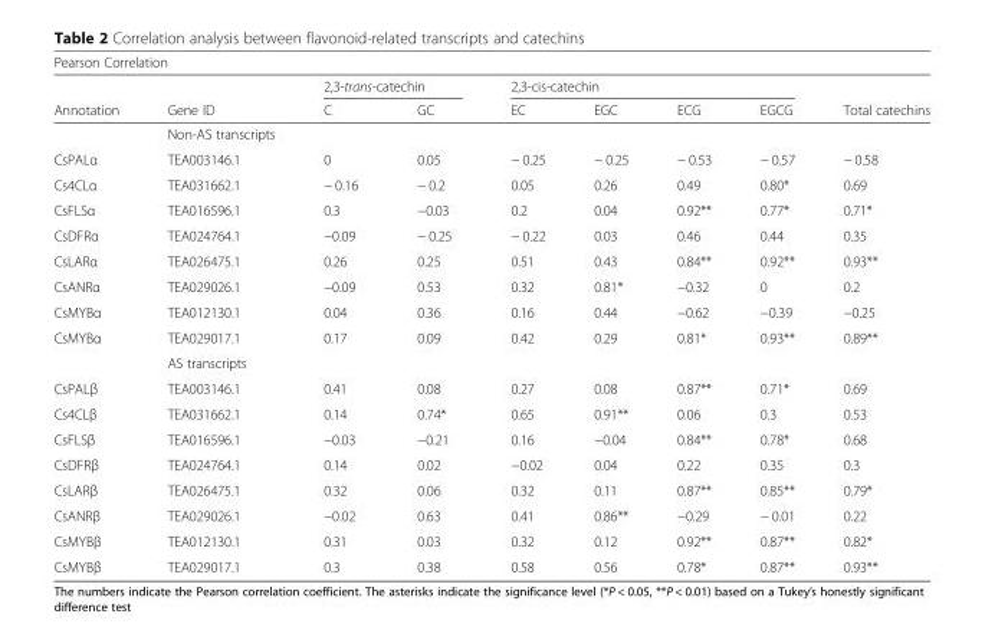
<table><thead><tr><td colspan="9">Pearson Correlation</td></tr><tr><td rowspan="2">Annotation</td><td rowspan="2">Gene ID</td><td colspan="2">2,3-trans-catechin</td><td colspan="4">2,3-cis-catechin</td><td rowspan="2">Total catechins</td></tr><tr><td>C</td><td>GC</td><td>EC</td><td>EGC</td><td>ECG</td><td>EGCG</td></tr></thead><tbody><tr><td></td><td>Non-AS transcripts</td><td></td><td></td><td></td><td></td><td></td><td></td><td></td></tr><tr><td>CsPALα</td><td>TEA003146.1</td><td>0</td><td>0.05</td><td>− 0.25</td><td>− 0.25</td><td>− 0.53</td><td>− 0.57</td><td>− 0.58</td></tr><tr><td>Cs4CLα</td><td>TEA031662.1</td><td>− 0.16</td><td>− 0.2</td><td>0.05</td><td>0.26</td><td>0.49</td><td>0.80*</td><td>0.69</td></tr><tr><td>CsFLSα</td><td>TEA016596.1</td><td>0.3</td><td>−0.03</td><td>0.2</td><td>0.04</td><td>0.92**</td><td>0.77*</td><td>0.71*</td></tr><tr><td>CsDFRα</td><td>TEA024764.1</td><td>−0.09</td><td>− 0.25</td><td>− 0.22</td><td>0.03</td><td>0.46</td><td>0.44</td><td>0.35</td></tr><tr><td>CsLARα</td><td>TEA026475.1</td><td>0.26</td><td>0.25</td><td>0.51</td><td>0.43</td><td>0.84**</td><td>0.92**</td><td>0.93**</td></tr><tr><td>CsANRα</td><td>TEA029026.1</td><td>−0.09</td><td>0.53</td><td>0.32</td><td>0.81*</td><td>−0.32</td><td>0</td><td>0.2</td></tr><tr><td>CsMYBα</td><td>TEA012130.1</td><td>0.04</td><td>0.36</td><td>0.16</td><td>0.44</td><td>−0.62</td><td>−0.39</td><td>−0.25</td></tr><tr><td rowspan="2">CsMYBα</td><td>TEA029017.1</td><td>0.17</td><td>0.09</td><td>0.42</td><td>0.29</td><td>0.81*</td><td>0.93**</td><td>0.89**</td></tr><tr><td>AS transcripts</td><td></td><td></td><td></td><td></td><td></td><td></td><td></td></tr><tr><td>CsPALβ</td><td>TEA003146.1</td><td>0.41</td><td>0.08</td><td>0.27</td><td>0.08</td><td>0.87**</td><td>0.71*</td><td>0.69</td></tr><tr><td>Cs4CLβ</td><td>TEA031662.1</td><td>0.14</td><td>0.74*</td><td>0.65</td><td>0.91**</td><td>0.06</td><td>0.3</td><td>0.53</td></tr><tr><td>CsFLSβ</td><td>TEA016596.1</td><td>−0.03</td><td>−0.21</td><td>0.16</td><td>−0.04</td><td>0.84**</td><td>0.78*</td><td>0.68</td></tr><tr><td>CsDFRβ</td><td>TEA024764.1</td><td>0.14</td><td>0.02</td><td>−0.02</td><td>0.04</td><td>0.22</td><td>0.35</td><td>0.3</td></tr><tr><td>CsLARβ</td><td>TEA026475.1</td><td>0.32</td><td>0.06</td><td>0.32</td><td>0.11</td><td>0.87**</td><td>0.85**</td><td>0.79*</td></tr><tr><td>CsANRβ</td><td>TEA029026.1</td><td>−0.02</td><td>0.63</td><td>0.41</td><td>0.86**</td><td>−0.29</td><td>− 0.01</td><td>0.22</td></tr><tr><td>CsMYBβ</td><td>TEA012130.1</td><td>0.31</td><td>0.03</td><td>0.32</td><td>0.12</td><td>0.92**</td><td>0.87**</td><td>0.82*</td></tr><tr><td>CsMYBβ</td><td>TEA029017.1</td><td>0.3</td><td>0.38</td><td>0.58</td><td>0.56</td><td>0.78*</td><td>0.87**</td><td>0.93**</td></tr></tbody></table>